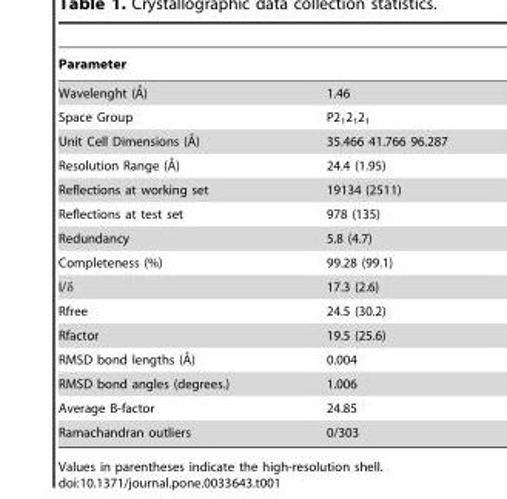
<table><thead><tr><td>Parameter</td><td></td></tr></thead><tbody><tr><td>Wavelenght (A˚)</td><td>1.46</td></tr><tr><td>Space Group</td><td>P2<sub>1</sub>2<sub>1</sub>2<sub>1</sub></td></tr><tr><td>Unit Cell Dimensions (A˚)</td><td>35.466 41.766 96.287</td></tr><tr><td>Resolution Range (A˚)</td><td>24.4 (1.95)</td></tr><tr><td>Reflections at working set</td><td>19134 (2511)</td></tr><tr><td>Reflections at test set</td><td>978 (135)</td></tr><tr><td>Redundancy</td><td>5.8 (4.7)</td></tr><tr><td>Completeness (%)</td><td>99.28 (99.1)</td></tr><tr><td>I/δ</td><td>17.3 (2.6)</td></tr><tr><td>Rfree</td><td>24.5 (30.2)</td></tr><tr><td>Rfactor</td><td>19.5 (25.6)</td></tr><tr><td>RMSD bond lengths (A˚)</td><td>0.004</td></tr><tr><td>RMSD bond angles (degrees.)</td><td>1.006</td></tr><tr><td>Average B-factor</td><td>24.85</td></tr><tr><td>Ramachandran outliers</td><td>0/303</td></tr></tbody></table>